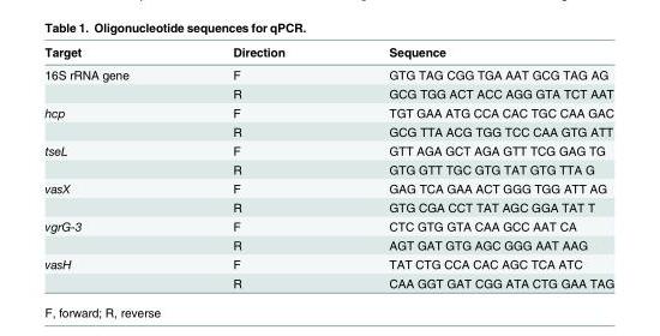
<table><thead><tr><td>Target</td><td>Direction</td><td>Sequence</td></tr></thead><tbody><tr><td rowspan="2">16S rRNA gene</td><td>F</td><td>GTG TAG CGG TGA AAT GCG TAG AG</td></tr><tr><td>R</td><td>GCG TGG ACT ACC AGG GTA TCT AAT</td></tr><tr><td rowspan="2">hcp</td><td>F</td><td>TGT GAA ATG CCA CAC TGC CAA GAC</td></tr><tr><td>R</td><td>GCG TTA ACG TGG TCC CAA GTG ATT</td></tr><tr><td rowspan="2">tseL</td><td>F</td><td>GTT AGA GCT AGA GTT TCG GAG TG</td></tr><tr><td>R</td><td>GTG GTT TGC GTG TAT GTG TTA G</td></tr><tr><td rowspan="2">vasX</td><td>F</td><td>GAG TCA GAA ACT GGG TGG ATT AG</td></tr><tr><td>R</td><td>GTG CGA CCT TAT AGC GGA TAT T</td></tr><tr><td rowspan="2">vgrG-3</td><td>F</td><td>CTC GTG GTA CAA GCC AAT CA</td></tr><tr><td>R</td><td>AGT GAT GTG AGC GGG AAT AAG</td></tr><tr><td rowspan="2">vasH</td><td>F</td><td>TAT CTG CCA CAC AGC TCA ATC</td></tr><tr><td>R</td><td>CAA GGT GAT CGG ATA CTG GAA TAG</td></tr></tbody></table>